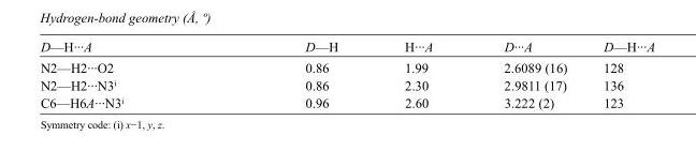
<table><tbody><tr><td>D—H···A</td><td>D—H</td><td>H···A</td><td>D···A</td><td>D—H···A</td></tr><tr><td>N2—H2···O2</td><td>0.86</td><td>1.99</td><td>2.6089 (16)</td><td>128</td></tr><tr><td>N2—H2···N3<sup>i</sup></td><td>0.86</td><td>2.30</td><td>2.9811 (17)</td><td>136</td></tr><tr><td>C6—H6A···N3<sup>i</sup></td><td>0.96</td><td>2.60</td><td>3.222 (2)</td><td>123</td></tr></tbody></table>